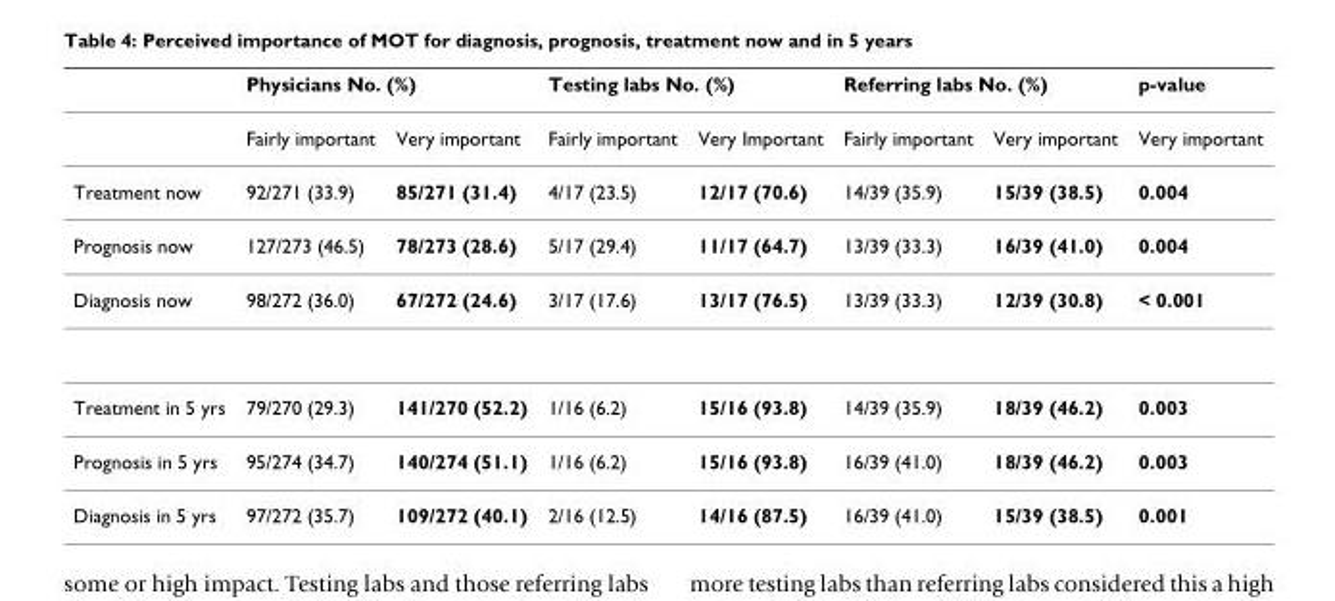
<table><thead><tr><td rowspan="2"></td><td colspan="2">Physicians No. (%)</td><td colspan="2">Testing labs No. (%)</td><td colspan="2">Referring labs No. (%)</td><td rowspan="2">p-value Very important</td></tr><tr><td>Fairly important</td><td>Very important</td><td>Fairly important</td><td>Very Important</td><td>Fairly important</td><td>Very important</td></tr></thead><tbody><tr><td>Treatment now</td><td>92/271 (33.9)</td><td>85/271 (31.4)</td><td>4/17 (23.5)</td><td>12/17 (70.6)</td><td>14/39 (35.9)</td><td>15/39 (38.5)</td><td>0.004</td></tr><tr><td>Prognosis now</td><td>127/273 (46.5)</td><td>78/273 (28.6)</td><td>5/17 (29.4)</td><td>11/17 (64.7)</td><td>13/39 (33.3)</td><td>16/39 (41.0)</td><td>0.004</td></tr><tr><td>Diagnosis now</td><td>98/272 (36.0)</td><td>67/272 (24.6)</td><td>3/17 (17.6)</td><td>13/17 (76.5)</td><td>13/39 (33.3)</td><td>12/39 (30.8)</td><td>&lt; 0.001</td></tr><tr><td>Treatment in 5 yrs</td><td>79/270 (29.3)</td><td>141/270 (52.2)</td><td>1/16 (6.2)</td><td>15/16 (93.8)</td><td>14/39 (35.9)</td><td>18/39 (46.2)</td><td>0.003</td></tr><tr><td>Prognosis in 5 yrs</td><td>95/274 (34.7)</td><td>140/274 (51.1)</td><td>1/16 (6.2)</td><td>15/16 (93.8)</td><td>16/39 (41.0)</td><td>18/39 (46.2)</td><td>0.003</td></tr><tr><td>Diagnosis in 5 yrs</td><td>97/272 (35.7)</td><td>109/272 (40.1)</td><td>2/16 (12.5)</td><td>14/16 (87.5)</td><td>16/39 (41.0)</td><td>15/39 (38.5)</td><td>0.001</td></tr></tbody></table>